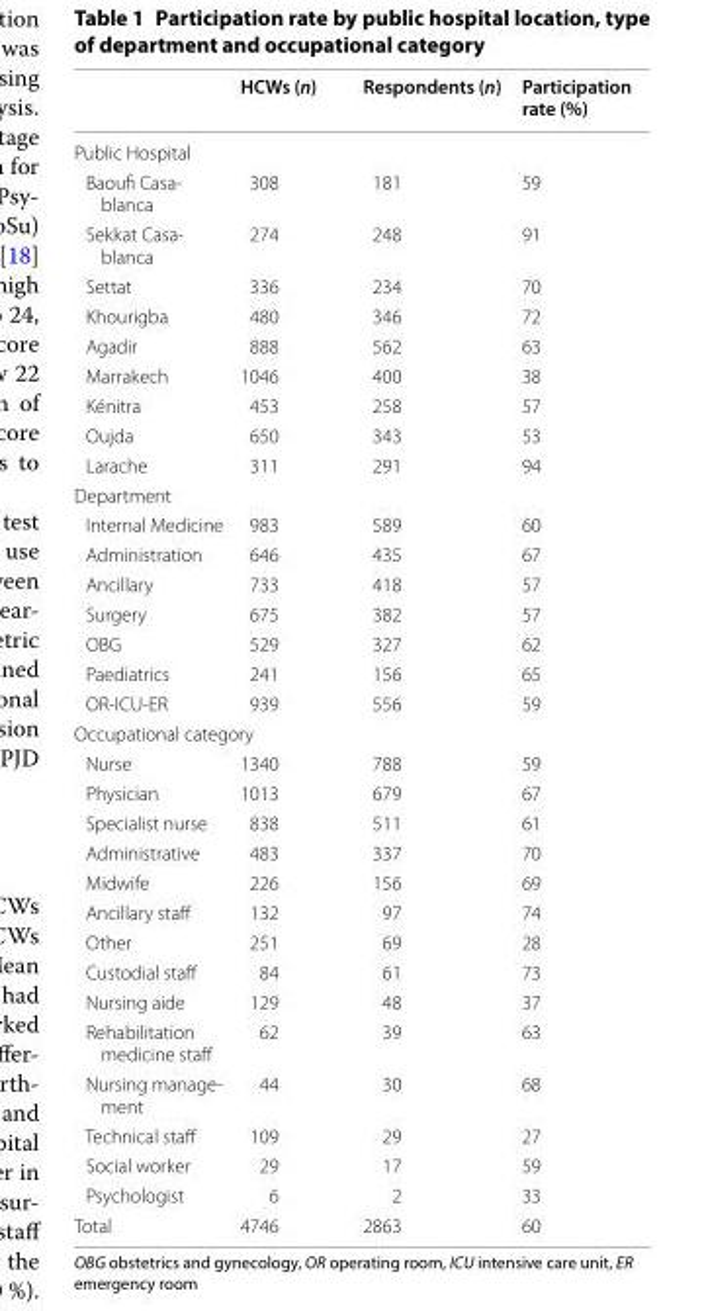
<table><thead><tr><td></td><td>HCWs (n)</td><td>Respondents (n)</td><td>Participation rate (%)</td></tr></thead><tbody><tr><td colspan="4">Public Hospital</td></tr><tr><td>Baoufi Casa- blanca</td><td>308</td><td>181</td><td>59</td></tr><tr><td>Sekkat Casa- blanca</td><td>274</td><td>248</td><td>91</td></tr><tr><td>Settat</td><td>336</td><td>234</td><td>70</td></tr><tr><td>Khourigba</td><td>480</td><td>346</td><td>72</td></tr><tr><td>Agadir</td><td>888</td><td>562</td><td>63</td></tr><tr><td>Marrakech</td><td>1046</td><td>400</td><td>38</td></tr><tr><td>Kénitra</td><td>453</td><td>258</td><td>57</td></tr><tr><td>Oujda</td><td>650</td><td>343</td><td>53</td></tr><tr><td>Larache</td><td>311</td><td>291</td><td>94</td></tr><tr><td colspan="4">Department</td></tr><tr><td>Internal Medicine</td><td>983</td><td>589</td><td>60</td></tr><tr><td>Administration</td><td>646</td><td>435</td><td>67</td></tr><tr><td>Ancillary</td><td>733</td><td>418</td><td>57</td></tr><tr><td>Surgery</td><td>675</td><td>382</td><td>57</td></tr><tr><td>OBG</td><td>529</td><td>327</td><td>62</td></tr><tr><td>Paediatrics</td><td>241</td><td>156</td><td>65</td></tr><tr><td>OR-ICU-ER</td><td>939</td><td>556</td><td>59</td></tr><tr><td colspan="4">Occupational category</td></tr><tr><td>Nurse</td><td>1340</td><td>788</td><td>59</td></tr><tr><td>Physician</td><td>1013</td><td>679</td><td>67</td></tr><tr><td>Specialist nurse</td><td>838</td><td>511</td><td>61</td></tr><tr><td>Administrative</td><td>483</td><td>337</td><td>70</td></tr><tr><td>Midwife</td><td>226</td><td>156</td><td>69</td></tr><tr><td>Ancillary staff</td><td>132</td><td>97</td><td>74</td></tr><tr><td>Other</td><td>251</td><td>69</td><td>28</td></tr><tr><td>Custodial staff</td><td>84</td><td>61</td><td>73</td></tr><tr><td>Nursing aide</td><td>129</td><td>48</td><td>37</td></tr><tr><td>Rehabilitation medicine staff</td><td>62</td><td>39</td><td>63</td></tr><tr><td>Nursing manage- ment</td><td>44</td><td>30</td><td>68</td></tr><tr><td>Technical staff</td><td>109</td><td>29</td><td>27</td></tr><tr><td>Social worker</td><td>29</td><td>17</td><td>59</td></tr><tr><td>Psychologist</td><td>6</td><td>2</td><td>33</td></tr><tr><td>Total</td><td>4746</td><td>2863</td><td>60</td></tr></tbody></table>